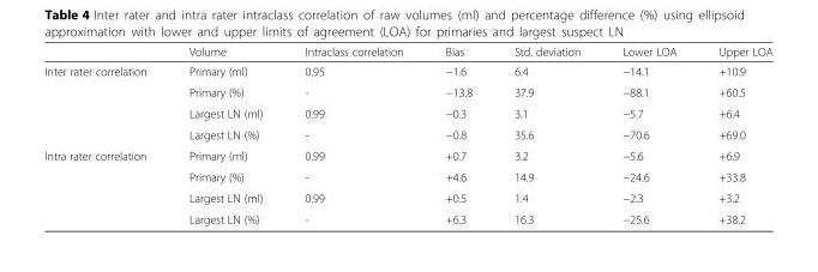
<table><thead><tr><td></td><td>Volume</td><td>Intraclass correlation</td><td>Bias</td><td>Std. deviation</td><td>Lower LOA</td><td>Upper LOA</td></tr></thead><tbody><tr><td rowspan="4">Inter rater correlation</td><td>Primary (ml)</td><td>0.95</td><td>−1.6</td><td>6.4</td><td>−14.1</td><td>+10.9</td></tr><tr><td>Primary (%)</td><td>-</td><td>−13.8</td><td>37.9</td><td>−88.1</td><td>+60.5</td></tr><tr><td>Largest LN (ml)</td><td>0.99</td><td>−0.3</td><td>3.1</td><td>−5.7</td><td>+6.4</td></tr><tr><td>Largest LN (%)</td><td>-</td><td>−0.8</td><td>35.6</td><td>−70.6</td><td>+69.0</td></tr><tr><td rowspan="4">Intra rater correlation</td><td>Primary (ml)</td><td>0.99</td><td>+0.7</td><td>3.2</td><td>−5.6</td><td>+6.9</td></tr><tr><td>Primary (%)</td><td>-</td><td>+4.6</td><td>14.9</td><td>−24.6</td><td>+33.8</td></tr><tr><td>Largest LN (ml)</td><td>0.99</td><td>+0.5</td><td>1.4</td><td>−2.3</td><td>+3.2</td></tr><tr><td>Largest LN (%)</td><td>-</td><td>+6.3</td><td>16.3</td><td>−25.6</td><td>+38.2</td></tr></tbody></table>